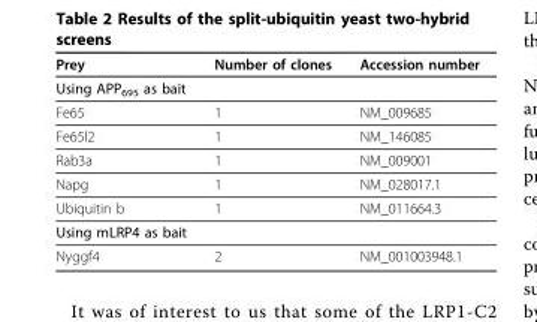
<table><thead><tr><td>Prey</td><td>Number of clones</td><td>Accession number</td></tr></thead><tbody><tr><td colspan="3">Using APP<sub>695</sub> as bait</td></tr><tr><td>Fe65</td><td>1</td><td>NM_009685</td></tr><tr><td>Fe65l2</td><td>1</td><td>NM_146085</td></tr><tr><td>Rab3a</td><td>1</td><td>NM_009001</td></tr><tr><td>Napg</td><td>1</td><td>NM_028017.1</td></tr><tr><td>Ubiquitin b</td><td>1</td><td>NM_011664.3</td></tr><tr><td colspan="3">Using mLRP4 as bait</td></tr><tr><td>Nyggf4</td><td>2</td><td>NM_001003948.1</td></tr></tbody></table>